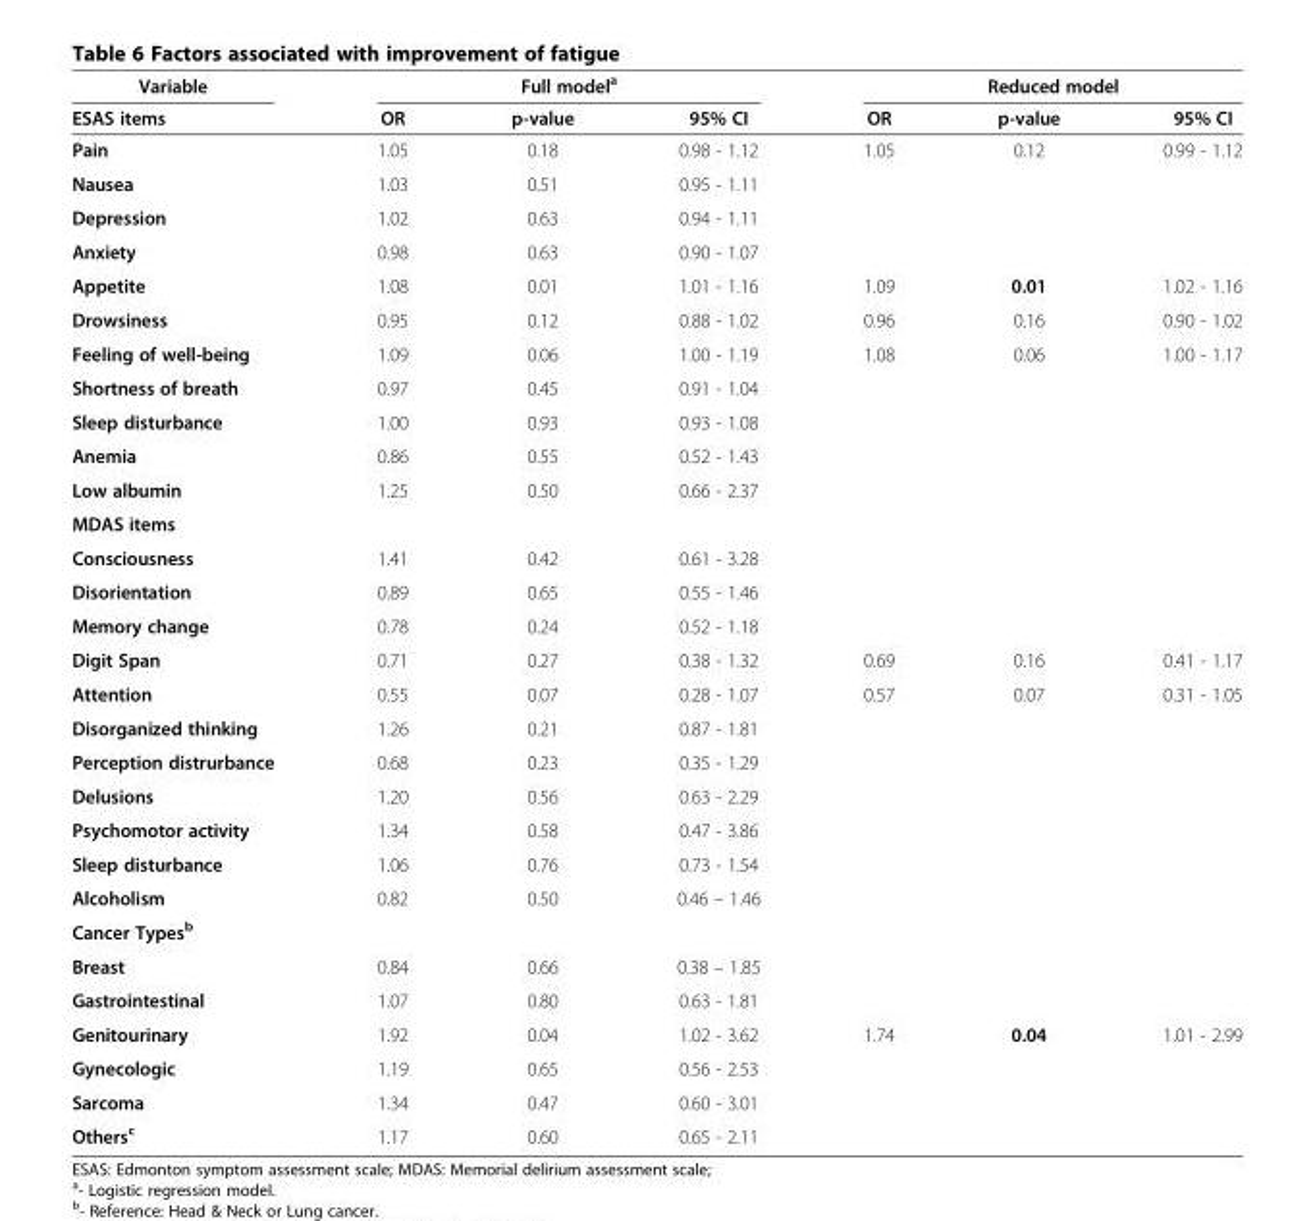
<table><thead><tr><td rowspan="2">Variable ESAS items</td><td colspan="3">Full model<sup>a</sup></td><td colspan="3">Reduced model</td></tr><tr><td>OR</td><td>p-value</td><td>95% CI</td><td>OR</td><td>p-value</td><td>95% CI</td></tr></thead><tbody><tr><td>Pain</td><td>1.05</td><td>0.18</td><td>0.98 - 1.12</td><td>1.05</td><td>0.12</td><td>0.99 - 1.12</td></tr><tr><td>Nausea</td><td>1.03</td><td>0.51</td><td>0.95 - 1.11</td><td></td><td></td><td></td></tr><tr><td>Depression</td><td>1.02</td><td>0.63</td><td>0.94 - 1.11</td><td></td><td></td><td></td></tr><tr><td>Anxiety</td><td>0.98</td><td>0.63</td><td>0.90 - 1.07</td><td></td><td></td><td></td></tr><tr><td>Appetite</td><td>1.08</td><td>0.01</td><td>1.01 - 1.16</td><td>1.09</td><td>0.01</td><td>1.02 - 1.16</td></tr><tr><td>Drowsiness</td><td>0.95</td><td>0.12</td><td>0.88 - 1.02</td><td>0.96</td><td>0.16</td><td>0.90 - 1.02</td></tr><tr><td>Feeling of well-being</td><td>1.09</td><td>0.06</td><td>1.00 - 1.19</td><td>1.08</td><td>0.06</td><td>1.00 - 1.17</td></tr><tr><td>Shortness of breath</td><td>0.97</td><td>0.45</td><td>0.91 - 1.04</td><td></td><td></td><td></td></tr><tr><td>Sleep disturbance</td><td>1.00</td><td>0.93</td><td>0.93 - 1.08</td><td></td><td></td><td></td></tr><tr><td>Anemia</td><td>0.86</td><td>0.55</td><td>0.52 - 1.43</td><td></td><td></td><td></td></tr><tr><td>Low albumin</td><td>1.25</td><td>0.50</td><td>0.66 - 2.37</td><td></td><td></td><td></td></tr><tr><td colspan="7">MDAS items</td></tr><tr><td>Consciousness</td><td>1.41</td><td>0.42</td><td>0.61 - 3.28</td><td></td><td></td><td></td></tr><tr><td>Disorientation</td><td>0.89</td><td>0.65</td><td>0.55 - 1.46</td><td></td><td></td><td></td></tr><tr><td>Memory change</td><td>0.78</td><td>0.24</td><td>0.52 - 1.18</td><td></td><td></td><td></td></tr><tr><td>Digit Span</td><td>0.71</td><td>0.27</td><td>0.38 - 1.32</td><td>0.69</td><td>0.16</td><td>0.41 - 1.17</td></tr><tr><td>Attention</td><td>0.55</td><td>0.07</td><td>0.28 - 1.07</td><td>0.57</td><td>0.07</td><td>0.31 - 1.05</td></tr><tr><td>Disorganized thinking</td><td>1.26</td><td>0.21</td><td>0.87 - 1.81</td><td></td><td></td><td></td></tr><tr><td>Perception distrurbance</td><td>0.68</td><td>0.23</td><td>0.35 - 1.29</td><td></td><td></td><td></td></tr><tr><td>Delusions</td><td>1.20</td><td>0.56</td><td>0.63 - 2.29</td><td></td><td></td><td></td></tr><tr><td>Psychomotor activity</td><td>1.34</td><td>0.58</td><td>0.47 - 3.86</td><td></td><td></td><td></td></tr><tr><td>Sleep disturbance</td><td>1.06</td><td>0.76</td><td>0.73 - 1.54</td><td></td><td></td><td></td></tr><tr><td>Alcoholism</td><td>0.82</td><td>0.50</td><td>0.46 – 1.46</td><td></td><td></td><td></td></tr><tr><td colspan="7">Cancer Types<sup>b</sup></td></tr><tr><td>Breast</td><td>0.84</td><td>0.66</td><td>0.38 – 1.85</td><td></td><td></td><td></td></tr><tr><td>Gastrointestinal</td><td>1.07</td><td>0.80</td><td>0.63 - 1.81</td><td></td><td></td><td></td></tr><tr><td>Genitourinary</td><td>1.92</td><td>0.04</td><td>1.02 - 3.62</td><td>1.74</td><td>0.04</td><td>1.01 - 2.99</td></tr><tr><td>Gynecologic</td><td>1.19</td><td>0.65</td><td>0.56 - 2.53</td><td></td><td></td><td></td></tr><tr><td>Sarcoma</td><td>1.34</td><td>0.47</td><td>0.60 - 3.01</td><td></td><td></td><td></td></tr><tr><td>Others<sup>c</sup></td><td>1.17</td><td>0.60</td><td>0.65 - 2.11</td><td></td><td></td><td></td></tr></tbody></table>